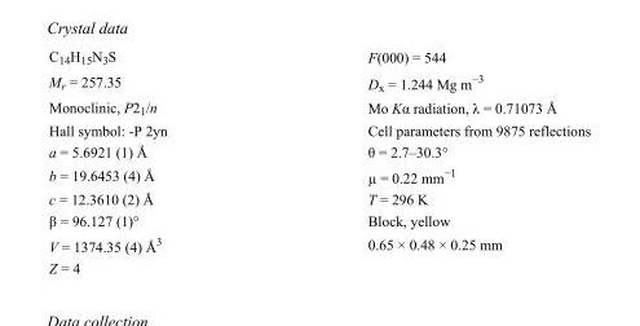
<table><tbody><tr><td>C<sub>14</sub>H<sub>15</sub>N<sub>3</sub>S</td><td>F(000) = 544</td></tr><tr><td>M<sub>r</sub> = 257.35</td><td>D<sub>x</sub> = 1.244 Mg m<sup>−3</sup></td></tr><tr><td>Monoclinic, P2<sub>1</sub>/n</td><td>Mo Kα radiation, λ = 0.71073 Å</td></tr><tr><td>Hall symbol: -P 2yn</td><td>Cell parameters from 9875 reflections</td></tr><tr><td>a = 5.6921 (1) Å</td><td>θ = 2.7–30.3°</td></tr><tr><td>b = 19.6453 (4) Å</td><td>µ = 0.22 mm<sup>−1</sup></td></tr><tr><td>c = 12.3610 (2) Å</td><td>T = 296 K</td></tr><tr><td>β = 96.127 (1)°</td><td>Block, yellow</td></tr><tr><td>V = 1374.35 (4) Å<sup>3</sup></td><td>0.65 × 0.48 × 0.25 mm</td></tr><tr><td>Z = 4</td><td></td></tr></tbody></table>